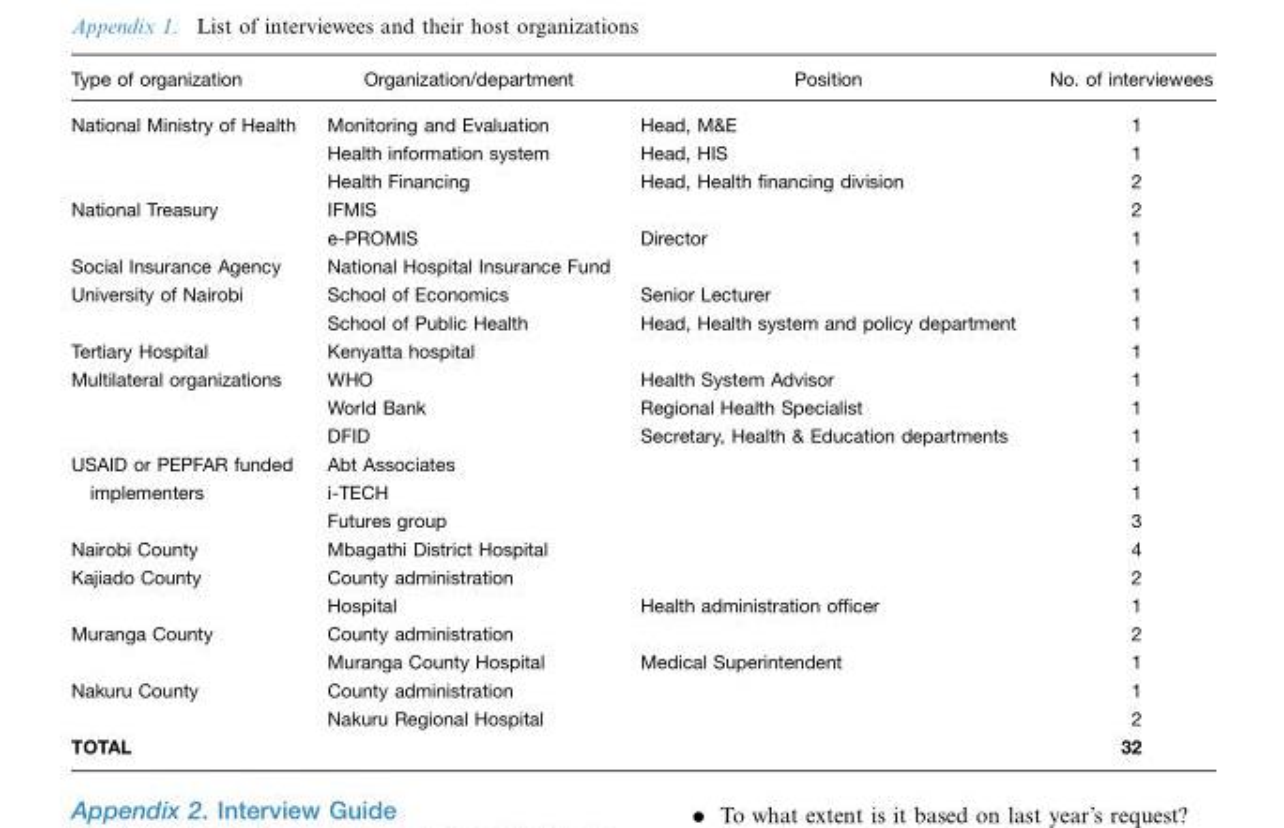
<table><thead><tr><td>Type of organization</td><td>Organization/department</td><td>Position</td><td>No. of interviewees</td></tr></thead><tbody><tr><td rowspan="3">National Ministry of Health</td><td>Monitoring and Evaluation</td><td>Head, M&amp;E</td><td>1</td></tr><tr><td>Health information system</td><td>Head, HIS</td><td>1</td></tr><tr><td>Health Financing</td><td>Head, Health financing division</td><td>2</td></tr><tr><td rowspan="2">National Treasury</td><td>IFMIS</td><td></td><td>2</td></tr><tr><td>e-PROMIS</td><td>Director</td><td>1</td></tr><tr><td>Social Insurance Agency</td><td>National Hospital Insurance Fund</td><td></td><td>1</td></tr><tr><td rowspan="2">University of Nairobi</td><td>School of Economics</td><td>Senior Lecturer</td><td>1</td></tr><tr><td>School of Public Health</td><td>Head, Health system and policy department</td><td>1</td></tr><tr><td>Tertiary Hospital</td><td>Kenyatta hospital</td><td></td><td>1</td></tr><tr><td rowspan="3">Multilateral organizations</td><td>WHO</td><td>Health System Advisor</td><td>1</td></tr><tr><td>World Bank</td><td>Regional Health Specialist</td><td>1</td></tr><tr><td>DFID</td><td>Secretary, Health &amp; Education departments</td><td>1</td></tr><tr><td>USAID or PEPFAR funded</td><td>Abt Associates</td><td></td><td>1</td></tr><tr><td rowspan="2">implementers</td><td>i-TECH</td><td></td><td>1</td></tr><tr><td>Futures group</td><td></td><td>3</td></tr><tr><td>Nairobi County</td><td>Mbagathi District Hospital</td><td></td><td>4</td></tr><tr><td rowspan="2">Kajiado County</td><td>County administration</td><td></td><td>2</td></tr><tr><td>Hospital</td><td>Health administration officer</td><td>1</td></tr><tr><td rowspan="2">Muranga County</td><td>County administration</td><td></td><td>2</td></tr><tr><td>Muranga County Hospital</td><td>Medical Superintendent</td><td>1</td></tr><tr><td rowspan="2">Nakuru County</td><td>County administration</td><td></td><td>1</td></tr><tr><td>Nakuru Regional Hospital</td><td></td><td>2</td></tr><tr><td>TOTAL</td><td></td><td></td><td>32</td></tr></tbody></table>